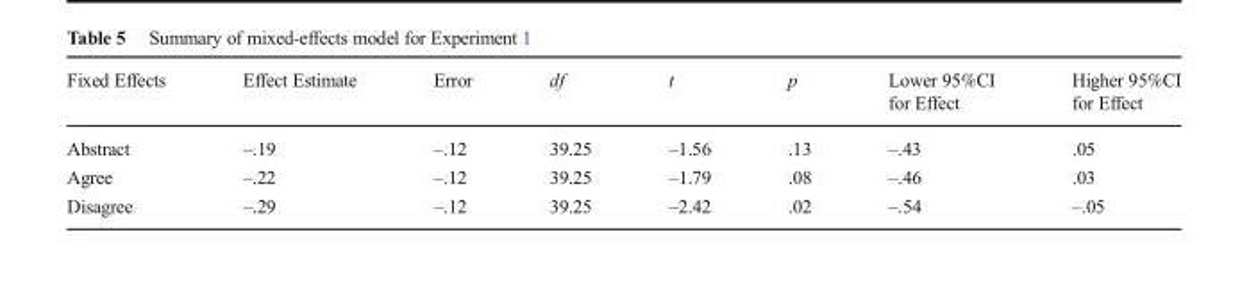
<table><thead><tr><td>Fixed Effects</td><td>Effect Estimate</td><td>Error</td><td>df</td><td>t</td><td>p</td><td>Lower 95%CI for Effect</td><td>Higher 95%CI for Effect</td></tr></thead><tbody><tr><td>Abstract</td><td>–.19</td><td>–.12</td><td>39.25</td><td>–1.56</td><td>.13</td><td>–.43</td><td>.05</td></tr><tr><td>Agree</td><td>–.22</td><td>–.12</td><td>39.25</td><td>–1.79</td><td>.08</td><td>–.46</td><td>.03</td></tr><tr><td>Disagree</td><td>–.29</td><td>–.12</td><td>39.25</td><td>–2.42</td><td>.02</td><td>–.54</td><td>–.05</td></tr></tbody></table>